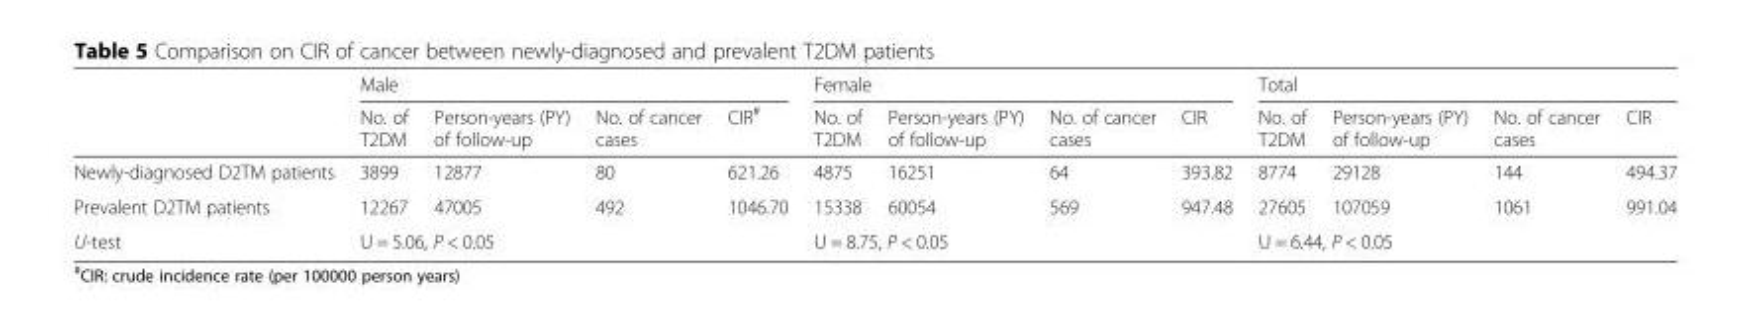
<table><thead><tr><td rowspan="2"></td><td colspan="4">Male</td><td colspan="4">Female</td><td colspan="4">Total</td></tr><tr><td>No. of T2DM</td><td>Person-years (PY) of follow-up</td><td>No. of cancer cases</td><td>CIR<sup>#</sup></td><td>No. of T2DM</td><td>Person-years (PY) of follow-up</td><td>No. of cancer cases</td><td>CIR</td><td>No. of T2DM</td><td>Person-years (PY) of follow-up</td><td>No. of cancer cases</td><td>CIR</td></tr></thead><tbody><tr><td>Newly-diagnosed D2TM patients</td><td>3899</td><td>12877</td><td>80</td><td>621.26</td><td>4875</td><td>16251</td><td>64</td><td>393.82</td><td>8774</td><td>29128</td><td>144</td><td>494.37</td></tr><tr><td>Prevalent D2TM patients</td><td>12267</td><td>47005</td><td>492</td><td>1046.70</td><td>15338</td><td>60054</td><td>569</td><td>947.48</td><td>27605</td><td>107059</td><td>1061</td><td>991.04</td></tr><tr><td>U-test</td><td colspan="4">U = 5.06, P &lt; 0.05</td><td colspan="4">U = 8.75, P &lt; 0.05</td><td colspan="4">U = 6.44, P &lt; 0.05</td></tr></tbody></table>